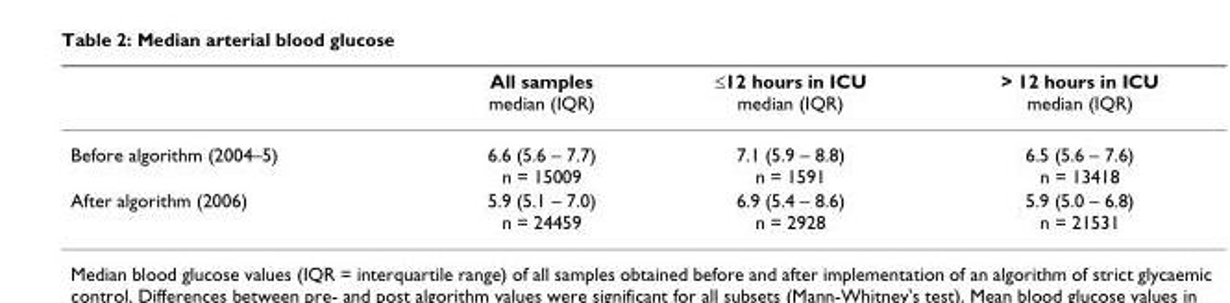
<table><thead><tr><td></td><td>All samples median (IQR)</td><td>≤12 hours in ICU median (IQR)</td><td>&gt; 12 hours in ICU median (IQR)</td></tr></thead><tbody><tr><td>Before algorithm (2004–5)</td><td>6.6 (5.6 – 7.7) n = 15009</td><td>7.1 (5.9 – 8.8) n = 1591</td><td>6.5 (5.6 – 7.6) n = 13418</td></tr><tr><td>After algorithm (2006)</td><td>5.9 (5.1 – 7.0) n = 24459</td><td>6.9 (5.4 – 8.6) n = 2928</td><td>5.9 (5.0 – 6.8) n = 21531</td></tr></tbody></table>